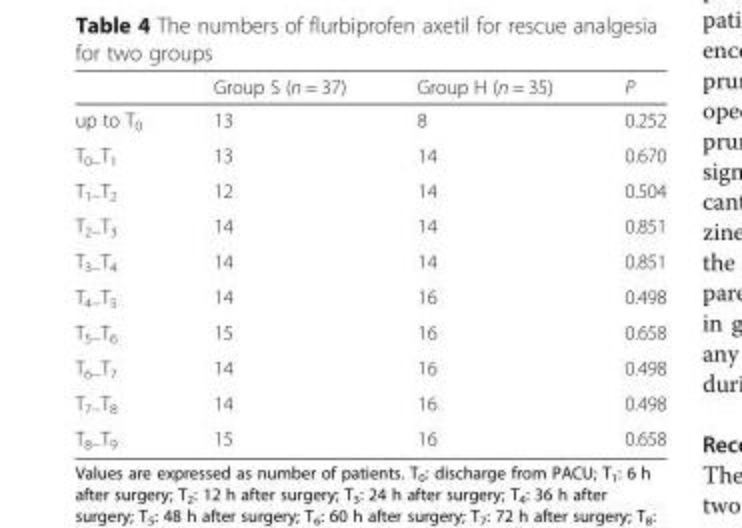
<table><thead><tr><td></td><td>Group S (n = 37)</td><td>Group H (n = 35)</td><td>P</td></tr></thead><tbody><tr><td>up to T<sub>0</sub></td><td>13</td><td>8</td><td>0.252</td></tr><tr><td>T<sub>0−</sub>T<sub>1</sub></td><td>13</td><td>14</td><td>0.670</td></tr><tr><td>T<sub>1−</sub>T<sub>2</sub></td><td>12</td><td>14</td><td>0.504</td></tr><tr><td>T<sub>2−</sub>T<sub>3</sub></td><td>14</td><td>14</td><td>0.851</td></tr><tr><td>T<sub>3−</sub>T<sub>4</sub></td><td>14</td><td>14</td><td>0.851</td></tr><tr><td>T<sub>4−</sub>T<sub>5</sub></td><td>14</td><td>16</td><td>0.498</td></tr><tr><td>T<sub>5−</sub>T<sub>6</sub></td><td>15</td><td>16</td><td>0.658</td></tr><tr><td>T<sub>6−</sub>T<sub>7</sub></td><td>14</td><td>16</td><td>0.498</td></tr><tr><td>T<sub>7−</sub>T<sub>8</sub></td><td>14</td><td>16</td><td>0.498</td></tr><tr><td>T<sub>8−</sub>T<sub>9</sub></td><td>15</td><td>16</td><td>0.658</td></tr></tbody></table>